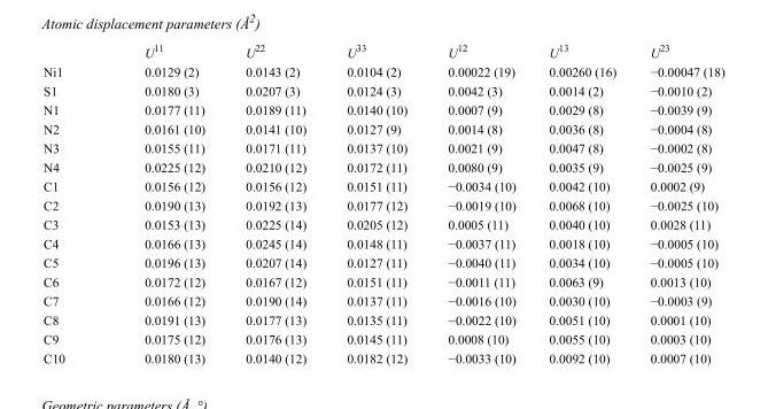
<table><thead><tr><td></td><td>U<sup>11</sup></td><td>U<sup>22</sup></td><td>U<sup>33</sup></td><td>U<sup>12</sup></td><td>U<sup>13</sup></td><td>U<sup>23</sup></td></tr></thead><tbody><tr><td>Ni1</td><td>0.0129 (2)</td><td>0.0143 (2)</td><td>0.0104 (2)</td><td>0.00022 (19)</td><td>0.00260 (16)</td><td>−0.00047 (18)</td></tr><tr><td>S1</td><td>0.0180 (3)</td><td>0.0207 (3)</td><td>0.0124 (3)</td><td>0.0042 (3)</td><td>0.0014 (2)</td><td>−0.0010 (2)</td></tr><tr><td>N1</td><td>0.0177 (11)</td><td>0.0189 (11)</td><td>0.0140 (10)</td><td>0.0007 (9)</td><td>0.0029 (8)</td><td>−0.0039 (9)</td></tr><tr><td>N2</td><td>0.0161 (10)</td><td>0.0141 (10)</td><td>0.0127 (9)</td><td>0.0014 (8)</td><td>0.0036 (8)</td><td>−0.0004 (8)</td></tr><tr><td>N3</td><td>0.0155 (11)</td><td>0.0171 (11)</td><td>0.0137 (10)</td><td>0.0021 (9)</td><td>0.0047 (8)</td><td>−0.0002 (8)</td></tr><tr><td>N4</td><td>0.0225 (12)</td><td>0.0210 (12)</td><td>0.0172 (11)</td><td>0.0080 (9)</td><td>0.0035 (9)</td><td>−0.0025 (9)</td></tr><tr><td>C1</td><td>0.0156 (12)</td><td>0.0156 (12)</td><td>0.0151 (11)</td><td>−0.0034 (10)</td><td>0.0042 (10)</td><td>0.0002 (9)</td></tr><tr><td>C2</td><td>0.0190 (13)</td><td>0.0192 (13)</td><td>0.0177 (12)</td><td>−0.0019 (10)</td><td>0.0068 (10)</td><td>−0.0025 (10)</td></tr><tr><td>C3</td><td>0.0153 (13)</td><td>0.0225 (14)</td><td>0.0205 (12)</td><td>0.0005 (11)</td><td>0.0040 (10)</td><td>0.0028 (11)</td></tr><tr><td>C4</td><td>0.0166 (13)</td><td>0.0245 (14)</td><td>0.0148 (11)</td><td>−0.0037 (11)</td><td>0.0018 (10)</td><td>−0.0005 (10)</td></tr><tr><td>C5</td><td>0.0196 (13)</td><td>0.0207 (14)</td><td>0.0127 (11)</td><td>−0.0040 (11)</td><td>0.0034 (10)</td><td>−0.0005 (10)</td></tr><tr><td>C6</td><td>0.0172 (12)</td><td>0.0167 (12)</td><td>0.0151 (11)</td><td>−0.0011 (11)</td><td>0.0063 (9)</td><td>0.0013 (10)</td></tr><tr><td>C7</td><td>0.0166 (12)</td><td>0.0190 (14)</td><td>0.0137 (11)</td><td>−0.0016 (10)</td><td>0.0030 (10)</td><td>−0.0003 (9)</td></tr><tr><td>C8</td><td>0.0191 (13)</td><td>0.0177 (13)</td><td>0.0135 (11)</td><td>−0.0022 (10)</td><td>0.0051 (10)</td><td>0.0001 (10)</td></tr><tr><td>C9</td><td>0.0175 (12)</td><td>0.0176 (13)</td><td>0.0145 (11)</td><td>0.0008 (10)</td><td>0.0055 (10)</td><td>0.0003 (10)</td></tr><tr><td>C10</td><td>0.0180 (13)</td><td>0.0140 (12)</td><td>0.0182 (12)</td><td>−0.0033 (10)</td><td>0.0092 (10)</td><td>0.0007 (10)</td></tr></tbody></table>